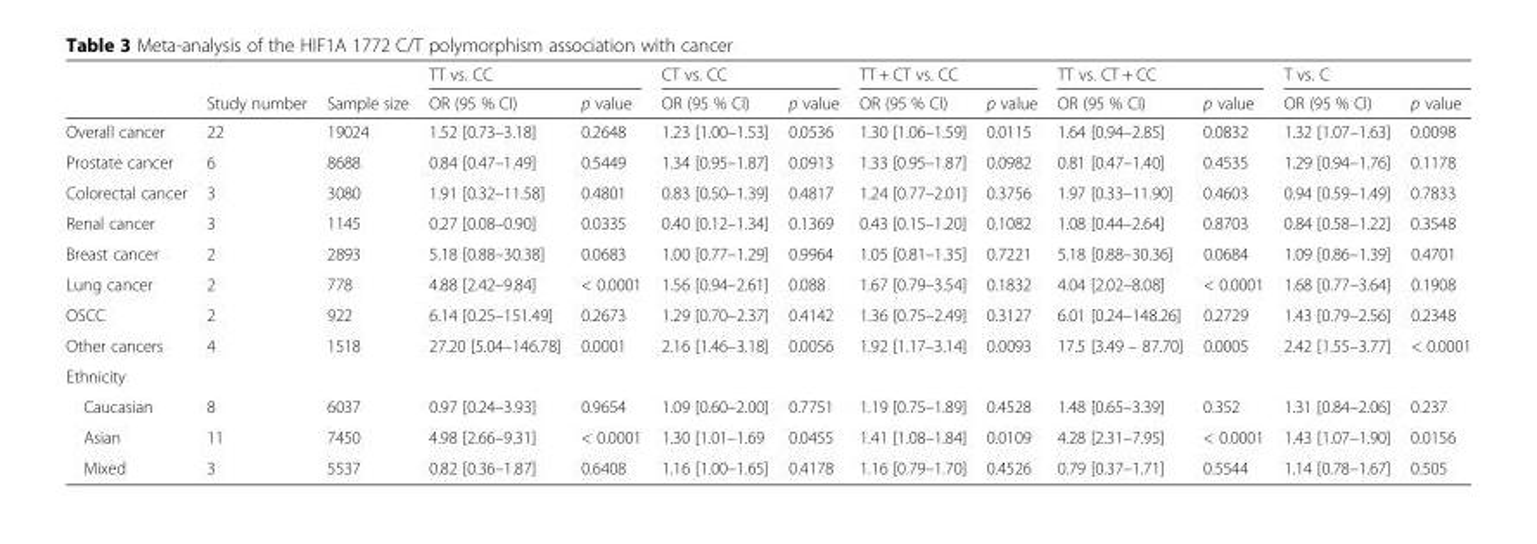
<table><thead><tr><td rowspan="2"></td><td rowspan="2">Study number</td><td rowspan="2">Sample size</td><td colspan="2">TT vs. CC</td><td colspan="2">CT vs. CC</td><td colspan="2">TT + CT vs. CC</td><td colspan="2">TT vs. CT + CC</td><td colspan="2">T vs. C</td></tr><tr><td>OR (95 % CI)</td><td>p value</td><td>OR (95 % CI)</td><td>p value</td><td>OR (95 % CI)</td><td>p value</td><td>OR (95 % CI)</td><td>p value</td><td>OR (95 % CI)</td><td>p value</td></tr></thead><tbody><tr><td>Overall cancer</td><td>22</td><td>19024</td><td>1.52 [0.73–3.18]</td><td>0.2648</td><td>1.23 [1.00–1.53]</td><td>0.0536</td><td>1.30 [1.06–1.59]</td><td>0.0115</td><td>1.64 [0.94–2.85]</td><td>0.0832</td><td>1.32 [1.07–1.63]</td><td>0.0098</td></tr><tr><td>Prostate cancer</td><td>6</td><td>8688</td><td>0.84 [0.47–1.49]</td><td>0.5449</td><td>1.34 [0.95–1.87]</td><td>0.0913</td><td>1.33 [0.95–1.87]</td><td>0.0982</td><td>0.81 [0.47–1.40]</td><td>0.4535</td><td>1.29 [0.94–1.76]</td><td>0.1178</td></tr><tr><td>Colorectal cancer</td><td>3</td><td>3080</td><td>1.91 [0.32–11.58]</td><td>0.4801</td><td>0.83 [0.50–1.39]</td><td>0.4817</td><td>1.24 [0.77–2.01]</td><td>0.3756</td><td>1.97 [0.33–11.90]</td><td>0.4603</td><td>0.94 [0.59–1.49]</td><td>0.7833</td></tr><tr><td>Renal cancer</td><td>3</td><td>1145</td><td>0.27 [0.08–0.90]</td><td>0.0335</td><td>0.40 [0.12–1.34]</td><td>0.1369</td><td>0.43 [0.15–1.20]</td><td>0.1082</td><td>1.08 [0.44–2.64]</td><td>0.8703</td><td>0.84 [0.58–1.22]</td><td>0.3548</td></tr><tr><td>Breast cancer</td><td>2</td><td>2893</td><td>5.18 [0.88–30.38]</td><td>0.0683</td><td>1.00 [0.77–1.29]</td><td>0.9964</td><td>1.05 [0.81–1.35]</td><td>0.7221</td><td>5.18 [0.88–30.36]</td><td>0.0684</td><td>1.09 [0.86–1.39]</td><td>0.4701</td></tr><tr><td>Lung cancer</td><td>2</td><td>778</td><td>4.88 [2.42–9.84]</td><td>&lt; 0.0001</td><td>1.56 [0.94–2.61]</td><td>0.088</td><td>1.67 [0.79–3.54]</td><td>0.1832</td><td>4.04 [2.02–8.08]</td><td>&lt; 0.0001</td><td>1.68 [0.77–3.64]</td><td>0.1908</td></tr><tr><td>OSCC</td><td>2</td><td>922</td><td>6.14 [0.25–151.49]</td><td>0.2673</td><td>1.29 [0.70–2.37]</td><td>0.4142</td><td>1.36 [0.75–2.49]</td><td>0.3127</td><td>6.01 [0.24–148.26]</td><td>0.2729</td><td>1.43 [0.79–2.56]</td><td>0.2348</td></tr><tr><td>Other cancers</td><td>4</td><td>1518</td><td>27.20 [5.04–146.78]</td><td>0.0001</td><td>2.16 [1.46–3.18]</td><td>0.0056</td><td>1.92 [1.17–3.14]</td><td>0.0093</td><td>17.5 [3.49 – 87.70]</td><td>0.0005</td><td>2.42 [1.55–3.77]</td><td>&lt; 0.0001</td></tr><tr><td colspan="13">Ethnicity</td></tr><tr><td>Caucasian</td><td>8</td><td>6037</td><td>0.97 [0.24–3.93]</td><td>0.9654</td><td>1.09 [0.60–2.00]</td><td>0.7751</td><td>1.19 [0.75–1.89]</td><td>0.4528</td><td>1.48 [0.65–3.39]</td><td>0.352</td><td>1.31 [0.84–2.06]</td><td>0.237</td></tr><tr><td>Asian</td><td>11</td><td>7450</td><td>4.98 [2.66–9.31]</td><td>&lt; 0.0001</td><td>1.30 [1.01–1.69</td><td>0.0455</td><td>1.41 [1.08–1.84]</td><td>0.0109</td><td>4.28 [2.31–7.95]</td><td>&lt; 0.0001</td><td>1.43 [1.07–1.90]</td><td>0.0156</td></tr><tr><td>Mixed</td><td>3</td><td>5537</td><td>0.82 [0.36–1.87]</td><td>0.6408</td><td>1.16 [1.00–1.65]</td><td>0.4178</td><td>1.16 [0.79–1.70]</td><td>0.4526</td><td>0.79 [0.37–1.71]</td><td>0.5544</td><td>1.14 [0.78–1.67]</td><td>0.505</td></tr></tbody></table>